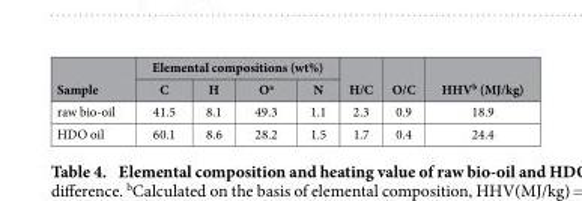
<table><thead><tr><td rowspan="2">Sample</td><td colspan="4">Elemental compositions (wt%)</td><td rowspan="2">H/C</td><td rowspan="2">O/C</td><td rowspan="2">HHV<sup>b</sup> (MJ/kg)</td></tr><tr><td>C</td><td>H</td><td>O<sup>a</sup></td><td>N</td></tr></thead><tbody><tr><td>raw bio-oil</td><td>41.5</td><td>8.1</td><td>49.3</td><td>1.1</td><td>2.3</td><td>0.9</td><td>18.9</td></tr><tr><td>HDO oil</td><td>60.1</td><td>8.6</td><td>28.2</td><td>1.5</td><td>1.7</td><td>0.4</td><td>24.4</td></tr></tbody></table>